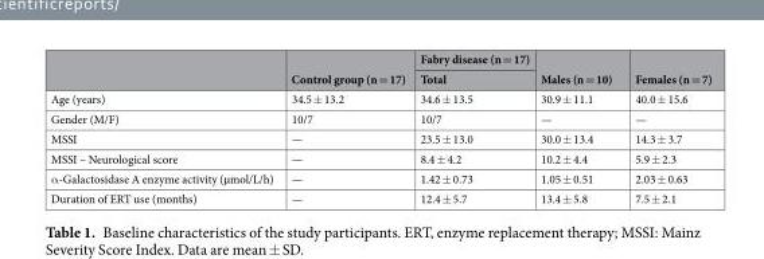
<table><thead><tr><td rowspan="2"></td><td rowspan="2">Control group (n = 17)</td><td rowspan="2">Fabry disease (n = 17) Total</td><td rowspan="2">Males (n = 10)</td><td rowspan="2">Females (n = 7)</td></tr><tr></tr></thead><tbody><tr><td>Age (years)</td><td>34.5 ± 13.2</td><td>34.6 ± 13.5</td><td>30.9 ± 11.1</td><td>40.0 ± 15.6</td></tr><tr><td>Gender (M/F)</td><td>10/7</td><td>10/7</td><td>—</td><td>—</td></tr><tr><td>MSSI</td><td>—</td><td>23.5 ± 13.0</td><td>30.0 ± 13.4</td><td>14.3 ± 3.7</td></tr><tr><td>MSSI – Neurological score</td><td>—</td><td>8.4 ± 4.2</td><td>10.2 ± 4.4</td><td>5.9 ± 2.3</td></tr><tr><td>α-Galactosidase A enzyme activity (µmol/L/h)</td><td>—</td><td>1.42 ± 0.73</td><td>1.05 ± 0.51</td><td>2.03 ± 0.63</td></tr><tr><td>Duration of ERT use (months)</td><td>—</td><td>12.4 ± 5.7</td><td>13.4 ± 5.8</td><td>7.5 ± 2.1</td></tr></tbody></table>